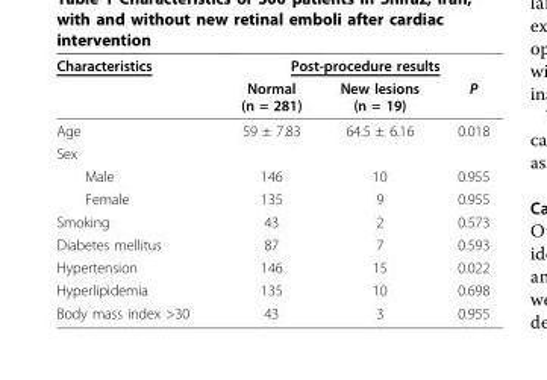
<table><thead><tr><td rowspan="2">Characteristics</td><td colspan="3">Post-procedure results</td></tr><tr><td>Normal (n = 281)</td><td>New lesions (n = 19)</td><td>P</td></tr></thead><tbody><tr><td>Age</td><td>59 ± 7.83</td><td>64.5 ± 6.16</td><td>0.018</td></tr><tr><td colspan="4">Sex</td></tr><tr><td>Male</td><td>146</td><td>10</td><td>0.955</td></tr><tr><td>Female</td><td>135</td><td>9</td><td>0.955</td></tr><tr><td>Smoking</td><td>43</td><td>2</td><td>0.573</td></tr><tr><td>Diabetes mellitus</td><td>87</td><td>7</td><td>0.593</td></tr><tr><td>Hypertension</td><td>146</td><td>15</td><td>0.022</td></tr><tr><td>Hyperlipidemia</td><td>135</td><td>10</td><td>0.698</td></tr><tr><td>Body mass index &gt;30</td><td>43</td><td>3</td><td>0.955</td></tr></tbody></table>